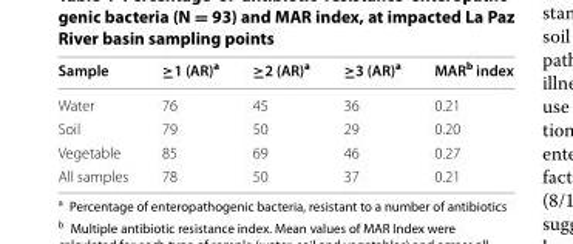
<table><thead><tr><td>Sample</td><td>≥1 (AR)<sup>a</sup></td><td>≥2 (AR)<sup>a</sup></td><td>≥3 (AR)<sup>a</sup></td><td>MAR<sup>b</sup> index</td></tr></thead><tbody><tr><td>Water</td><td>76</td><td>45</td><td>36</td><td>0.21</td></tr><tr><td>Soil</td><td>79</td><td>50</td><td>29</td><td>0.20</td></tr><tr><td>Vegetable</td><td>85</td><td>69</td><td>46</td><td>0.27</td></tr><tr><td>All samples</td><td>78</td><td>50</td><td>37</td><td>0.21</td></tr></tbody></table>